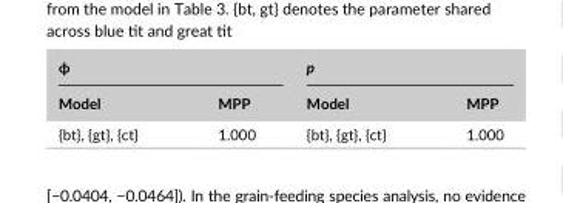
<table><thead><tr><td colspan="2">ϕ</td><td colspan="2">p</td></tr><tr><td>Model</td><td>MPP</td><td>Model</td><td>MPP</td></tr></thead><tbody><tr><td>{bt}, {gt}, {ct}</td><td>1.000</td><td>{bt}, {gt}, {ct}</td><td>1.000</td></tr></tbody></table>